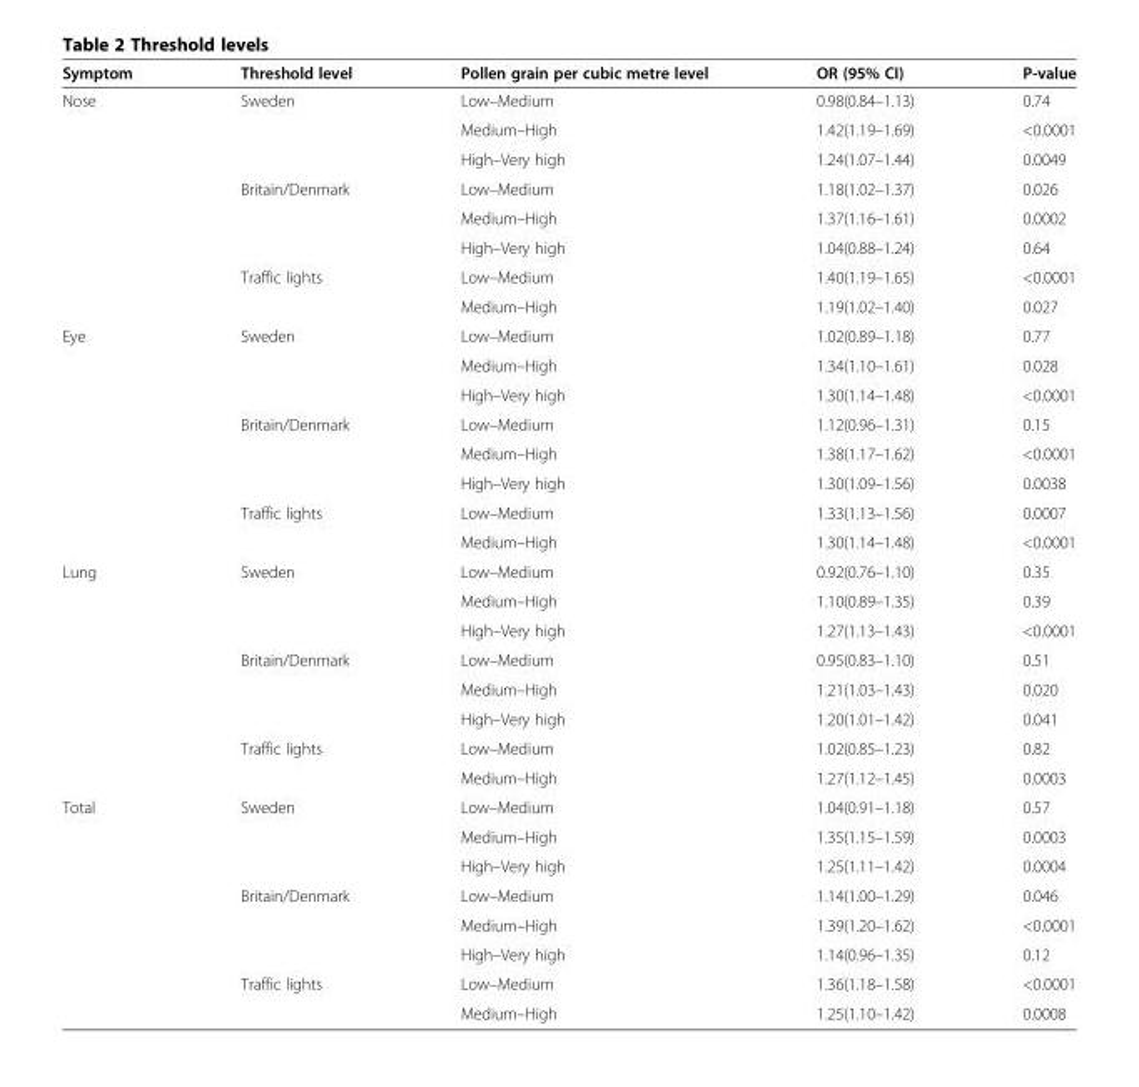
<table><thead><tr><td>Symptom</td><td>Threshold level</td><td>Pollen grain per cubic metre level</td><td>OR (95% CI)</td><td>P-value</td></tr></thead><tbody><tr><td rowspan="8">Nose</td><td>Sweden</td><td>Low–Medium</td><td>0.98(0.84–1.13)</td><td>0.74</td></tr><tr><td></td><td>Medium–High</td><td>1.42(1.19–1.69)</td><td>&lt;0.0001</td></tr><tr><td></td><td>High–Very high</td><td>1.24(1.07–1.44)</td><td>0.0049</td></tr><tr><td>Britain/Denmark</td><td>Low–Medium</td><td>1.18(1.02–1.37)</td><td>0.026</td></tr><tr><td></td><td>Medium–High</td><td>1.37(1.16–1.61)</td><td>0.0002</td></tr><tr><td></td><td>High–Very high</td><td>1.04(0.88–1.24)</td><td>0.64</td></tr><tr><td>Traffic lights</td><td>Low–Medium</td><td>1.40(1.19–1.65)</td><td>&lt;0.0001</td></tr><tr><td></td><td>Medium–High</td><td>1.19(1.02–1.40)</td><td>0.027</td></tr><tr><td rowspan="8">Eye</td><td>Sweden</td><td>Low–Medium</td><td>1.02(0.89–1.18)</td><td>0.77</td></tr><tr><td></td><td>Medium–High</td><td>1.34(1.10–1.61)</td><td>0.028</td></tr><tr><td></td><td>High–Very high</td><td>1.30(1.14–1.48)</td><td>&lt;0.0001</td></tr><tr><td>Britain/Denmark</td><td>Low–Medium</td><td>1.12(0.96–1.31)</td><td>0.15</td></tr><tr><td></td><td>Medium–High</td><td>1.38(1.17–1.62)</td><td>&lt;0.0001</td></tr><tr><td></td><td>High–Very high</td><td>1.30(1.09–1.56)</td><td>0.0038</td></tr><tr><td>Traffic lights</td><td>Low–Medium</td><td>1.33(1.13–1.56)</td><td>0.0007</td></tr><tr><td></td><td>Medium–High</td><td>1.30(1.14–1.48)</td><td>&lt;0.0001</td></tr><tr><td rowspan="8">Lung</td><td>Sweden</td><td>Low–Medium</td><td>0.92(0.76–1.10)</td><td>0.35</td></tr><tr><td></td><td>Medium–High</td><td>1.10(0.89–1.35)</td><td>0.39</td></tr><tr><td></td><td>High–Very high</td><td>1.27(1.13–1.43)</td><td>&lt;0.0001</td></tr><tr><td>Britain/Denmark</td><td>Low–Medium</td><td>0.95(0.83–1.10)</td><td>0.51</td></tr><tr><td></td><td>Medium–High</td><td>1.21(1.03–1.43)</td><td>0.020</td></tr><tr><td></td><td>High–Very high</td><td>1.20(1.01–1.42)</td><td>0.041</td></tr><tr><td>Traffic lights</td><td>Low–Medium</td><td>1.02(0.85–1.23)</td><td>0.82</td></tr><tr><td></td><td>Medium–High</td><td>1.27(1.12–1.45)</td><td>0.0003</td></tr><tr><td rowspan="8">Total</td><td>Sweden</td><td>Low–Medium</td><td>1.04(0.91–1.18)</td><td>0.57</td></tr><tr><td></td><td>Medium–High</td><td>1.35(1.15–1.59)</td><td>0.0003</td></tr><tr><td></td><td>High–Very high</td><td>1.25(1.11–1.42)</td><td>0.0004</td></tr><tr><td>Britain/Denmark</td><td>Low–Medium</td><td>1.14(1.00–1.29)</td><td>0.046</td></tr><tr><td></td><td>Medium–High</td><td>1.39(1.20–1.62)</td><td>&lt;0.0001</td></tr><tr><td></td><td>High–Very high</td><td>1.14(0.96–1.35)</td><td>0.12</td></tr><tr><td>Traffic lights</td><td>Low–Medium</td><td>1.36(1.18–1.58)</td><td>&lt;0.0001</td></tr><tr><td></td><td>Medium–High</td><td>1.25(1.10–1.42)</td><td>0.0008</td></tr></tbody></table>